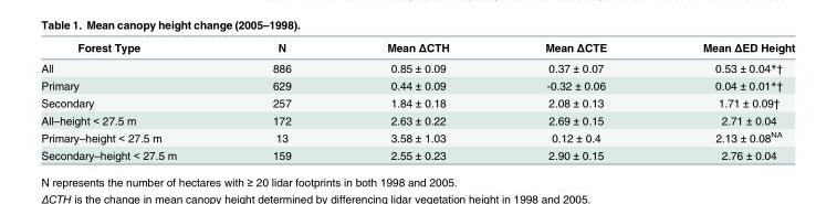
<table><thead><tr><td>Forest Type</td><td>N</td><td>Mean ΔCTH</td><td>Mean ΔCTE</td><td>Mean ΔED Height</td></tr></thead><tbody><tr><td>All</td><td>886</td><td>0.85 ± 0.09</td><td>0.37 ± 0.07</td><td>0.53 ± 0.04*†</td></tr><tr><td>Primary</td><td>629</td><td>0.44 ± 0.09</td><td>-0.32 ± 0.06</td><td>0.04 ± 0.01*†</td></tr><tr><td>Secondary</td><td>257</td><td>1.84 ± 0.18</td><td>2.08 ± 0.13</td><td>1.71 ± 0.09†</td></tr><tr><td>All–height &lt; 27.5 m</td><td>172</td><td>2.63 ± 0.22</td><td>2.69 ± 0.15</td><td>2.71 ± 0.04</td></tr><tr><td>Primary–height &lt; 27.5 m</td><td>13</td><td>3.58 ± 1.03</td><td>0.12 ± 0.4</td><td>2.13 ± 0.08<sup>NA</sup></td></tr><tr><td>Secondary–height &lt; 27.5 m</td><td>159</td><td>2.55 ± 0.23</td><td>2.90 ± 0.15</td><td>2.76 ± 0.04</td></tr></tbody></table>